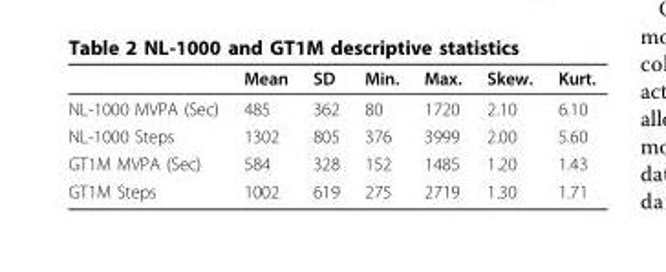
<table><thead><tr><td></td><td>Mean</td><td>SD</td><td>Min.</td><td>Max.</td><td>Skew.</td><td>Kurt.</td></tr></thead><tbody><tr><td>NL-1000 MVPA (Sec)</td><td>485</td><td>362</td><td>80</td><td>1720</td><td>2.10</td><td>6.10</td></tr><tr><td>NL-1000 Steps</td><td>1302</td><td>805</td><td>376</td><td>3999</td><td>2.00</td><td>5.60</td></tr><tr><td>GT1M MVPA (Sec)</td><td>584</td><td>328</td><td>152</td><td>1485</td><td>1.20</td><td>1.43</td></tr><tr><td>GT1M Steps</td><td>1002</td><td>619</td><td>275</td><td>2719</td><td>1.30</td><td>1.71</td></tr></tbody></table>